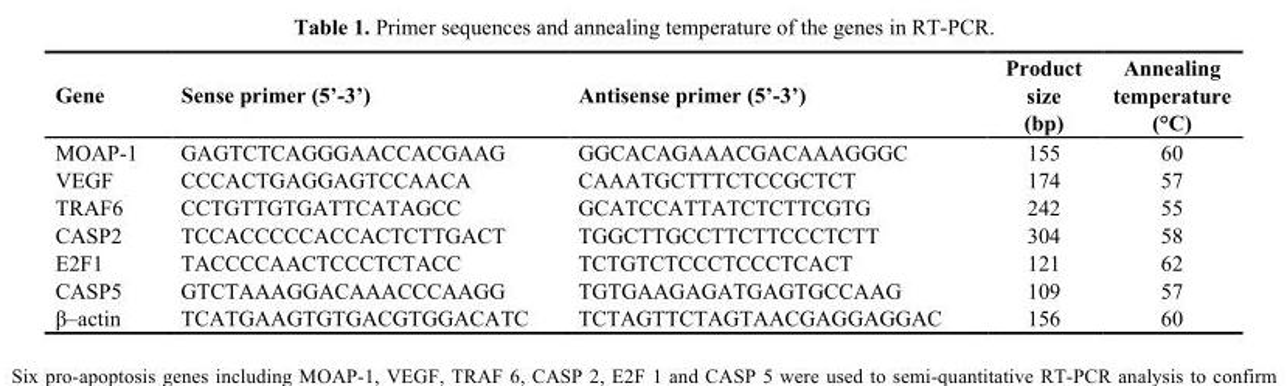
<table><thead><tr><td>Gene</td><td>Sense primer (5’-3’)</td><td>Antisense primer (5’-3’)</td><td>Product size (bp)</td><td>Annealing temperature (°C)</td></tr></thead><tbody><tr><td>MOAP-1</td><td>GAGTCTCAGGGAACCACGAAG</td><td>GGCACAGAAACGACAAAGGGC</td><td>155</td><td>60</td></tr><tr><td>VEGF</td><td>CCCACTGAGGAGTCCAACA</td><td>CAAATGCTTTCTCCGCTCT</td><td>174</td><td>57</td></tr><tr><td>TRAF6</td><td>CCTGTTGTGATTCATAGCC</td><td>GCATCCATTATCTCTTCGTG</td><td>242</td><td>55</td></tr><tr><td>CASP2</td><td>TCCACCCCCACCACTCTTGACT</td><td>TGGCTTGCCTTCTTCCCTCTT</td><td>304</td><td>58</td></tr><tr><td>E2F1</td><td>TACCCCAACTCCCTCTACC</td><td>TCTGTCTCCCTCCCTCACT</td><td>121</td><td>62</td></tr><tr><td>CASP5</td><td>GTCTAAAGGACAAACCCAAGG</td><td>TGTGAAGAGATGAGTGCCAAG</td><td>109</td><td>57</td></tr><tr><td>!–actin</td><td>TCATGAAGTGTGACGTGGACATC</td><td>TCTAGTTCTAGTAACGAGGAGGAC</td><td>156</td><td>60</td></tr></tbody></table>